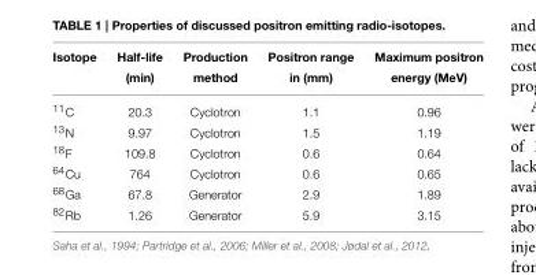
<table><thead><tr><td>Isotope</td><td>Half-life (min)</td><td>Production method</td><td>Positron range in (mm)</td><td>Maximum positron energy (MeV)</td></tr></thead><tbody><tr><td>11<sub>C</sub></td><td>20.3</td><td>Cyclotron</td><td>1.1</td><td>0.96</td></tr><tr><td>13<sub>N</sub></td><td>9.97</td><td>Cyclotron</td><td>1.5</td><td>1.19</td></tr><tr><td>18<sub>F</sub></td><td>109.8</td><td>Cyclotron</td><td>0.6</td><td>0.64</td></tr><tr><td>64<sub>Cu</sub></td><td>764</td><td>Cyclotron</td><td>0.6</td><td>0.65</td></tr><tr><td>68<sub>Ga</sub></td><td>67.8</td><td>Generator</td><td>2.9</td><td>1.89</td></tr><tr><td>82<sub>Rb</sub></td><td>1.26</td><td>Generator</td><td>5.9</td><td>3.15</td></tr></tbody></table>